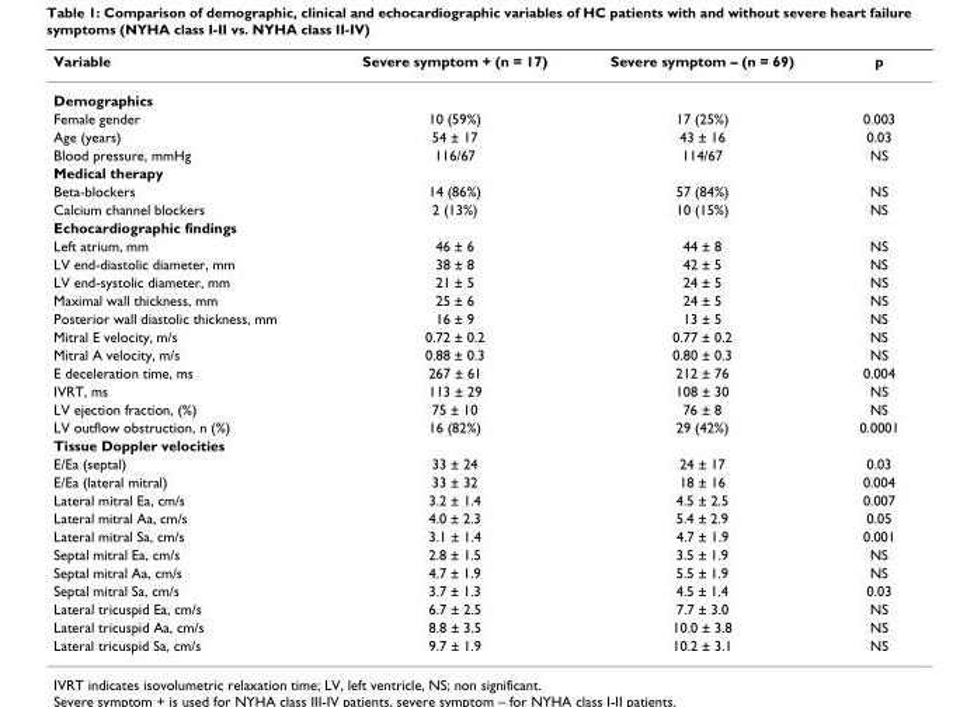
<table><thead><tr><td>Variable</td><td>Severe symptom + (n = 17)</td><td>Severe symptom – (n = 69)</td><td>p</td></tr></thead><tbody><tr><td colspan="4">Demographics</td></tr><tr><td>Female gender</td><td>10 (59%)</td><td>17 (25%)</td><td>0.003</td></tr><tr><td>Age (years)</td><td>54 ± 17</td><td>43 ± 16</td><td>0.03</td></tr><tr><td>Blood pressure, mmHg</td><td>116/67</td><td>114/67</td><td>NS</td></tr><tr><td colspan="4">Medical therapy</td></tr><tr><td>Beta-blockers</td><td>14 (86%)</td><td>57 (84%)</td><td>NS</td></tr><tr><td>Calcium channel blockers</td><td>2 (13%)</td><td>10 (15%)</td><td>NS</td></tr><tr><td colspan="4">Echocardiographic findings</td></tr><tr><td>Left atrium, mm</td><td>46 ± 6</td><td>44 ± 8</td><td>NS</td></tr><tr><td>LV end-diastolic diameter, mm</td><td>38 ± 8</td><td>42 ± 5</td><td>NS</td></tr><tr><td>LV end-systolic diameter, mm</td><td>21 ± 5</td><td>24 ± 5</td><td>NS</td></tr><tr><td>Maximal wall thickness, mm</td><td>25 ± 6</td><td>24 ± 5</td><td>NS</td></tr><tr><td>Posterior wall diastolic thickness, mm</td><td>16 ± 9</td><td>13 ± 5</td><td>NS</td></tr><tr><td>Mitral E velocity, m/s</td><td>0.72 ± 0.2</td><td>0.77 ± 0.2</td><td>NS</td></tr><tr><td>Mitral A velocity, m/s</td><td>0.88 ± 0.3</td><td>0.80 ± 0.3</td><td>NS</td></tr><tr><td>E deceleration time, ms</td><td>267 ± 61</td><td>212 ± 76</td><td>0.004</td></tr><tr><td>IVRT, ms</td><td>113 ± 29</td><td>108 ± 30</td><td>NS</td></tr><tr><td>LV ejection fraction, (%)</td><td>75 ± 10</td><td>76 ± 8</td><td>NS</td></tr><tr><td>LV outflow obstruction, n (%)</td><td>16 (82%)</td><td>29 (42%)</td><td>0.0001</td></tr><tr><td colspan="4">Tissue Doppler velocities</td></tr><tr><td>E/Ea (septal)</td><td>33 ± 24</td><td>24 ± 17</td><td>0.03</td></tr><tr><td>E/Ea (lateral mitral)</td><td>33 ± 32</td><td>18 ± 16</td><td>0.004</td></tr><tr><td>Lateral mitral Ea, cm/s</td><td>3.2 ± 1.4</td><td>4.5 ± 2.5</td><td>0.007</td></tr><tr><td>Lateral mitral Aa, cm/s</td><td>4.0 ± 2.3</td><td>5.4 ± 2.9</td><td>0.05</td></tr><tr><td>Lateral mitral Sa, cm/s</td><td>3.1 ± 1.4</td><td>4.7 ± 1.9</td><td>0.001</td></tr><tr><td>Septal mitral Ea, cm/s</td><td>2.8 ± 1.5</td><td>3.5 ± 1.9</td><td>NS</td></tr><tr><td>Septal mitral Aa, cm/s</td><td>4.7 ± 1.9</td><td>5.5 ± 1.9</td><td>NS</td></tr><tr><td>Septal mitral Sa, cm/s</td><td>3.7 ± 1.3</td><td>4.5 ± 1.4</td><td>0.03</td></tr><tr><td>Lateral tricuspid Ea, cm/s</td><td>6.7 ± 2.5</td><td>7.7 ± 3.0</td><td>NS</td></tr><tr><td>Lateral tricuspid Aa, cm/s</td><td>8.8 ± 3.5</td><td>10.0 ± 3.8</td><td>NS</td></tr><tr><td>Lateral tricuspid Sa, cm/s</td><td>9.7 ± 1.9</td><td>10.2 ± 3.1</td><td>NS</td></tr></tbody></table>